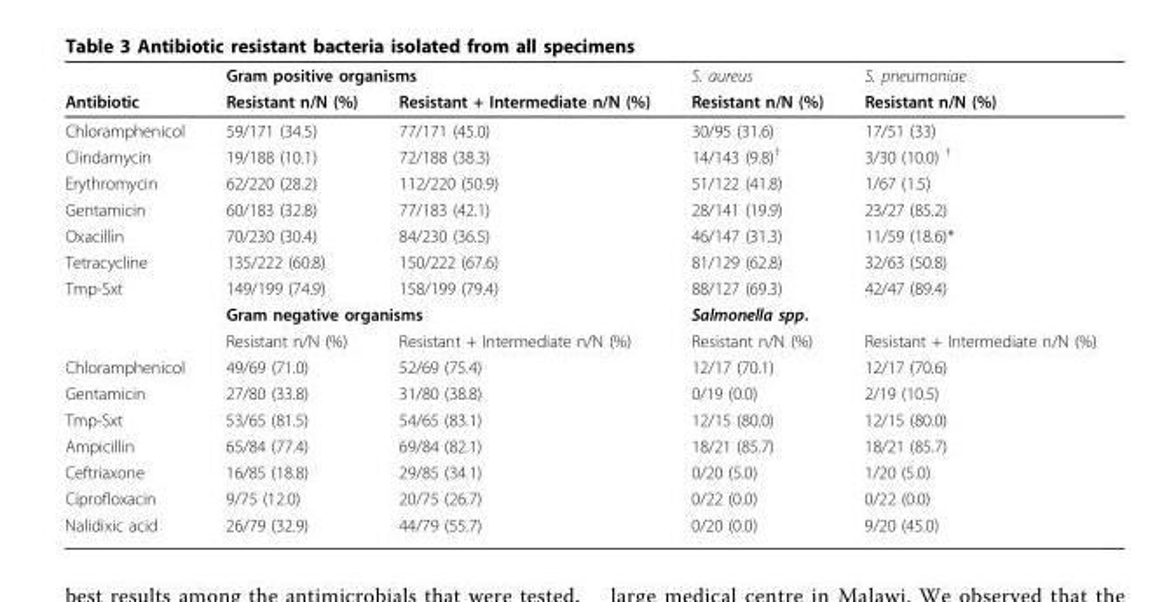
<table><thead><tr><td rowspan="2">Antibiotic</td><td colspan="2">Gram positive organisms</td><td rowspan="2">S. aureus Resistant n/N (%)</td><td rowspan="2">S. pneumoniae Resistant n/N (%)</td></tr><tr><td>Resistant n/N (%)</td><td>Resistant + Intermediate n/N (%)</td></tr></thead><tbody><tr><td>Chloramphenicol</td><td>59/171 (34.5)</td><td>77/171 (45.0)</td><td>30/95 (31.6)</td><td>17/51 (33)</td></tr><tr><td>Clindamycin</td><td>19/188 (10.1)</td><td>72/188 (38.3)</td><td>14/143 (9.8)<sup>†</sup></td><td>3/30 (10.0) <sup>†</sup></td></tr><tr><td>Erythromycin</td><td>62/220 (28.2)</td><td>112/220 (50.9)</td><td>51/122 (41.8)</td><td>1/67 (1.5)</td></tr><tr><td>Gentamicin</td><td>60/183 (32.8)</td><td>77/183 (42.1)</td><td>28/141 (19.9)</td><td>23/27 (85.2)</td></tr><tr><td>Oxacillin</td><td>70/230 (30.4)</td><td>84/230 (36.5)</td><td>46/147 (31.3)</td><td>11/59 (18.6)*</td></tr><tr><td>Tetracycline</td><td>135/222 (60.8)</td><td>150/222 (67.6)</td><td>81/129 (62.8)</td><td>32/63 (50.8)</td></tr><tr><td rowspan="3">Tmp-Sxt</td><td>149/199 (74.9)</td><td>158/199 (79.4)</td><td>88/127 (69.3)</td><td>42/47 (89.4)</td></tr><tr><td colspan="2">Gram negative organisms</td><td colspan="2">Salmonella spp.</td></tr><tr><td>Resistant n/N (%)</td><td>Resistant + Intermediate n/N (%)</td><td>Resistant n/N (%)</td><td>Resistant + Intermediate n/N (%)</td></tr><tr><td>Chloramphenicol</td><td>49/69 (71.0)</td><td>52/69 (75.4)</td><td>12/17 (70.1)</td><td>12/17 (70.6)</td></tr><tr><td>Gentamicin</td><td>27/80 (33.8)</td><td>31/80 (38.8)</td><td>0/19 (0.0)</td><td>2/19 (10.5)</td></tr><tr><td>Tmp-Sxt</td><td>53/65 (81.5)</td><td>54/65 (83.1)</td><td>12/15 (80.0)</td><td>12/15 (80.0)</td></tr><tr><td>Ampicillin</td><td>65/84 (77.4)</td><td>69/84 (82.1)</td><td>18/21 (85.7)</td><td>18/21 (85.7)</td></tr><tr><td>Ceftriaxone</td><td>16/85 (18.8)</td><td>29/85 (34.1)</td><td>0/20 (5.0)</td><td>1/20 (5.0)</td></tr><tr><td>Ciprofloxacin</td><td>9/75 (12.0)</td><td>20/75 (26.7)</td><td>0/22 (0.0)</td><td>0/22 (0.0)</td></tr><tr><td>Nalidixic acid</td><td>26/79 (32.9)</td><td>44/79 (55.7)</td><td>0/20 (0.0)</td><td>9/20 (45.0)</td></tr></tbody></table>